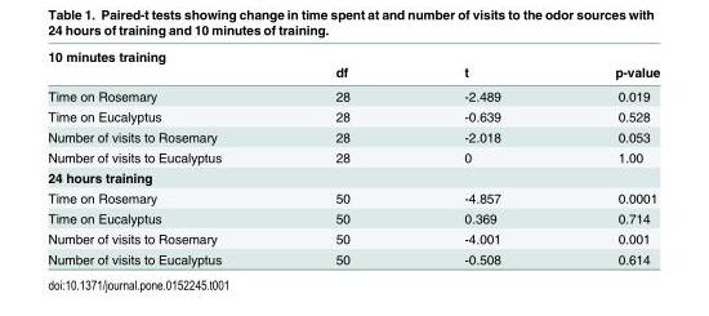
<table><thead><tr><td rowspan="2">10 minutes training</td><td rowspan="2">df</td><td rowspan="2">t</td><td rowspan="2">p-value</td></tr><tr></tr></thead><tbody><tr><td>Time on Rosemary</td><td>28</td><td>-2.489</td><td>0.019</td></tr><tr><td>Time on Eucalyptus</td><td>28</td><td>-0.639</td><td>0.528</td></tr><tr><td>Number of visits to Rosemary</td><td>28</td><td>-2.018</td><td>0.053</td></tr><tr><td>Number of visits to Eucalyptus</td><td>28</td><td>0</td><td>1.00</td></tr><tr><td colspan="4">24 hours training</td></tr><tr><td>Time on Rosemary</td><td>50</td><td>-4.857</td><td>0.0001</td></tr><tr><td>Time on Eucalyptus</td><td>50</td><td>0.369</td><td>0.714</td></tr><tr><td>Number of visits to Rosemary</td><td>50</td><td>-4.001</td><td>0.001</td></tr><tr><td>Number of visits to Eucalyptus</td><td>50</td><td>-0.508</td><td>0.614</td></tr></tbody></table>